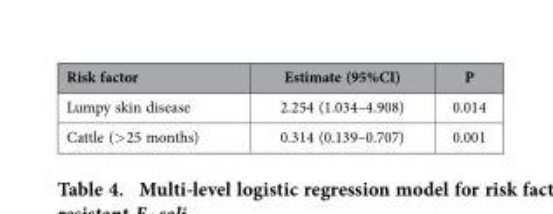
<table><thead><tr><td>Risk factor</td><td>Estimate (95%CI)</td><td>P</td></tr></thead><tbody><tr><td>Lumpy skin disease</td><td>2.254 (1.034–4.908)</td><td>0.014</td></tr><tr><td>Cattle (&gt; 25 months)</td><td>0.314 (0.139–0.707)</td><td>0.001</td></tr></tbody></table>